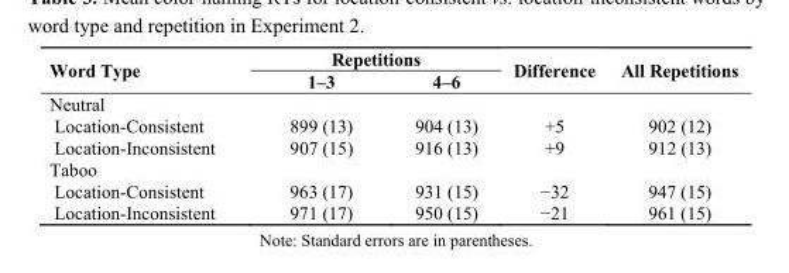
<table><thead><tr><td rowspan="2">Word Type</td><td colspan="2">Repetitions</td><td rowspan="2">Difference</td><td rowspan="2">All Repetitions</td></tr><tr><td>1–3</td><td>4–6</td></tr></thead><tbody><tr><td colspan="5">Neutral</td></tr><tr><td>Location-Consistent</td><td>899 (13)</td><td>904 (13)</td><td>+5</td><td>902 (12)</td></tr><tr><td>Location-Inconsistent</td><td>907 (15)</td><td>916 (13)</td><td>+9</td><td>912 (13)</td></tr><tr><td colspan="5">Taboo</td></tr><tr><td>Location-Consistent</td><td>963 (17)</td><td>931 (15)</td><td>−32</td><td>947 (15)</td></tr><tr><td>Location-Inconsistent</td><td>971 (17)</td><td>950 (15)</td><td>−21</td><td>961 (15)</td></tr></tbody></table>